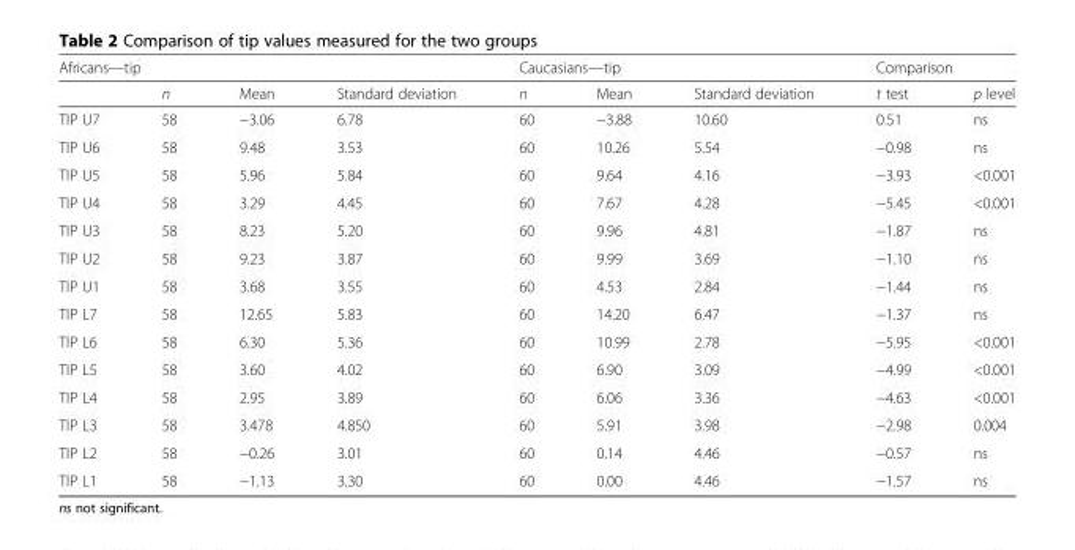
<table><thead><tr><td colspan="4">Africans—tip</td><td colspan="3">Caucasians—tip</td><td colspan="2">Comparison</td></tr><tr><td></td><td>n</td><td>Mean</td><td>Standard deviation</td><td>n</td><td>Mean</td><td>Standard deviation</td><td>t test</td><td>p level</td></tr></thead><tbody><tr><td>TIP U7</td><td>58</td><td>−3.06</td><td>6.78</td><td>60</td><td>−3.88</td><td>10.60</td><td>0.51</td><td>ns</td></tr><tr><td>TIP U6</td><td>58</td><td>9.48</td><td>3.53</td><td>60</td><td>10.26</td><td>5.54</td><td>−0.98</td><td>ns</td></tr><tr><td>TIP U5</td><td>58</td><td>5.96</td><td>5.84</td><td>60</td><td>9.64</td><td>4.16</td><td>−3.93</td><td>&lt;0.001</td></tr><tr><td>TIP U4</td><td>58</td><td>3.29</td><td>4.45</td><td>60</td><td>7.67</td><td>4.28</td><td>−5.45</td><td>&lt;0.001</td></tr><tr><td>TIP U3</td><td>58</td><td>8.23</td><td>5.20</td><td>60</td><td>9.96</td><td>4.81</td><td>−1.87</td><td>ns</td></tr><tr><td>TIP U2</td><td>58</td><td>9.23</td><td>3.87</td><td>60</td><td>9.99</td><td>3.69</td><td>−1.10</td><td>ns</td></tr><tr><td>TIP U1</td><td>58</td><td>3.68</td><td>3.55</td><td>60</td><td>4.53</td><td>2.84</td><td>−1.44</td><td>ns</td></tr><tr><td>TIP L7</td><td>58</td><td>12.65</td><td>5.83</td><td>60</td><td>14.20</td><td>6.47</td><td>−1.37</td><td>ns</td></tr><tr><td>TIP L6</td><td>58</td><td>6.30</td><td>5.36</td><td>60</td><td>10.99</td><td>2.78</td><td>−5.95</td><td>&lt;0.001</td></tr><tr><td>TIP L5</td><td>58</td><td>3.60</td><td>4.02</td><td>60</td><td>6.90</td><td>3.09</td><td>−4.99</td><td>&lt;0.001</td></tr><tr><td>TIP L4</td><td>58</td><td>2.95</td><td>3.89</td><td>60</td><td>6.06</td><td>3.36</td><td>−4.63</td><td>&lt;0.001</td></tr><tr><td>TIP L3</td><td>58</td><td>3.478</td><td>4.850</td><td>60</td><td>5.91</td><td>3.98</td><td>−2.98</td><td>0.004</td></tr><tr><td>TIP L2</td><td>58</td><td>−0.26</td><td>3.01</td><td>60</td><td>0.14</td><td>4.46</td><td>−0.57</td><td>ns</td></tr><tr><td>TIP L1</td><td>58</td><td>−1.13</td><td>3.30</td><td>60</td><td>0.00</td><td>4.46</td><td>−1.57</td><td>ns</td></tr></tbody></table>